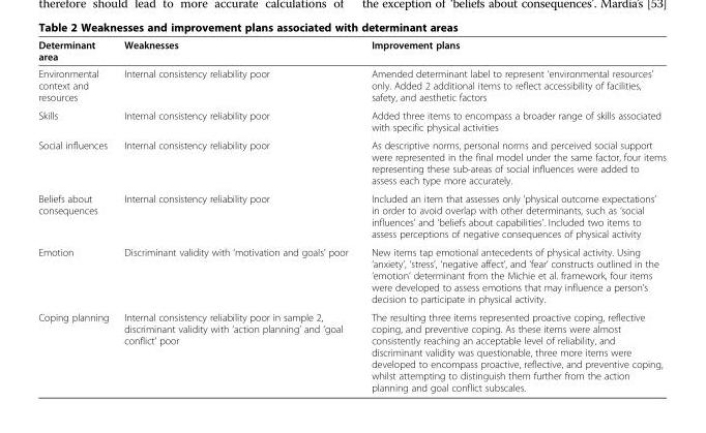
<table><thead><tr><td>Determinant area</td><td>Weaknesses</td><td>Improvement plans</td></tr></thead><tbody><tr><td>Environmental context and resources</td><td>Internal consistency reliability poor</td><td>Amended determinant label to represent ‘environmental resources’ only. Added 2 additional items to reflect accessibility of facilities, safety, and aesthetic factors</td></tr><tr><td>Skills</td><td>Internal consistency reliability poor</td><td>Added three items to encompass a broader range of skills associated with specific physical activities</td></tr><tr><td>Social influences</td><td>Internal consistency reliability poor</td><td>As descriptive norms, personal norms and perceived social support were represented in the final model under the same factor, four items representing these sub-areas of social influences were added to assess each type more accurately.</td></tr><tr><td>Beliefs about consequences</td><td>Internal consistency reliability poor</td><td>Included an item that assesses only ‘physical outcome expectations’ in order to avoid overlap with other determinants, such as ‘social influences’ and ‘beliefs about capabilities’. Included two items to assess perceptions of negative consequences of physical activity</td></tr><tr><td>Emotion</td><td>Discriminant validity with ‘motivation and goals’ poor</td><td>New items tap emotional antecedents of physical activity. Using ‘anxiety’, ‘stress’, ‘negative affect’, and ‘fear’ constructs outlined in the ‘emotion’ determinant from the Michie et al. framework, four items were developed to assess emotions that may influence a person’s decision to participate in physical activity.</td></tr><tr><td>Coping planning</td><td>Internal consistency reliability poor in sample 2, discriminant validity with ‘action planning’ and ‘goal conflict’ poor</td><td>The resulting three items represented proactive coping, reflective coping, and preventive coping. As these items were almost consistently reaching an acceptable level of reliability, and discriminant validity was questionable, three more items were developed to encompass proactive, reflective, and preventive coping, whilst attempting to distinguish them further from the action planning and goal conflict subscales.</td></tr></tbody></table>